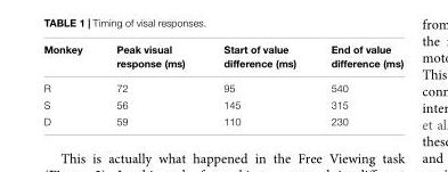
<table><thead><tr><td>Monkey</td><td>Peak visual response (ms)</td><td>Start of value difference (ms)</td><td>End of value difference (ms)</td></tr></thead><tbody><tr><td>R</td><td>72</td><td>95</td><td>540</td></tr><tr><td>S</td><td>56</td><td>145</td><td>315</td></tr><tr><td>D</td><td>59</td><td>110</td><td>230</td></tr></tbody></table>